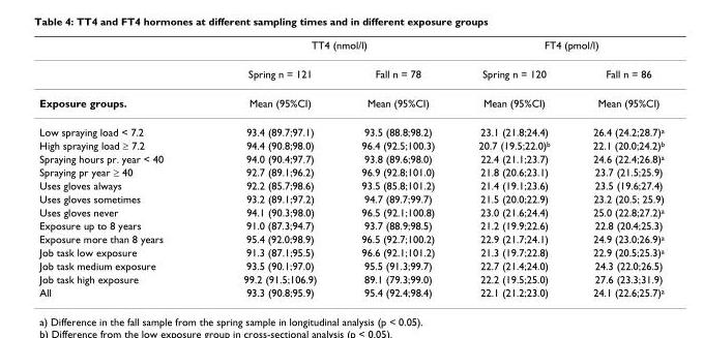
<table><thead><tr><td rowspan="2"></td><td colspan="2">TT4 (nmol/l)</td><td colspan="2">FT4 (pmol/l)</td></tr><tr><td>Spring n = 121</td><td>Fall n = 78</td><td>Spring n = 120</td><td>Fall n = 86</td></tr></thead><tbody><tr><td>Exposure groups.</td><td>Mean (95%CI)</td><td>Mean (95%CI)</td><td>Mean (95%CI)</td><td>Mean (95%CI)</td></tr><tr><td>Low spraying load &lt; 7.2</td><td>93.4 (89.7;97.1)</td><td>93.5 (88.8;98.2)</td><td>23.1 (21.8;24.4)</td><td>26.4 (24.2;28.7)<sup>a</sup></td></tr><tr><td>High spraying load ≥ 7.2</td><td>94.4 (90.8;98.0)</td><td>96.4 (92.5;100.3)</td><td>20.7 (19.5;22.0)<sup>b</sup></td><td>22.1 (20.0;24.2)<sup>b</sup></td></tr><tr><td>Spraying hours pr. year &lt; 40</td><td>94.0 (90.4;97.7)</td><td>93.8 (89.6;98.0)</td><td>22.4 (21.1;23.7)</td><td>24.6 (22.4;26.8)<sup>a</sup></td></tr><tr><td>Spraying pr year ≥ 40</td><td>92.7 (89.1;96.2)</td><td>96.9 (92.8;101.0)</td><td>21.8 (20.6;23.1)</td><td>23.7 (21.5;25.9)</td></tr><tr><td>Uses gloves always</td><td>92.2 (85.7;98.6)</td><td>93.5 (85.8;101.2)</td><td>21.4 (19.1;23.6)</td><td>23.5 (19.6;27.4)</td></tr><tr><td>Uses gloves sometimes</td><td>93.2 (89.1;97.2)</td><td>94.7 (89.7;99.7)</td><td>21.5 (20.0;22.9)</td><td>23.2 (20.5; 25.9)</td></tr><tr><td>Uses gloves never</td><td>94.1 (90.3;98.0)</td><td>96.5 (92.1;100.8)</td><td>23.0 (21.6;24.4)</td><td>25.0 (22.8;27.2)<sup>a</sup></td></tr><tr><td>Exposure up to 8 years</td><td>91.0 (87.3;94.7)</td><td>93.7 (88.9;98.5)</td><td>21.2 (19.9;22.6)</td><td>22.8 (20.4;25.3)</td></tr><tr><td>Exposure more than 8 years</td><td>95.4 (92.0;98.9)</td><td>96.5 (92.7;100.2)</td><td>22.9 (21.7;24.1)</td><td>24.9 (23.0;26.9)<sup>a</sup></td></tr><tr><td>Job task low exposure</td><td>91.3 (87.1;95.5)</td><td>96.6 (92.1;101.2)</td><td>21.3 (19.7;22.8)</td><td>22.9 (20.5;25.3)<sup>a</sup></td></tr><tr><td>Job task medium exposure</td><td>93.5 (90.1;97.0)</td><td>95.5 (91.3;99.7)</td><td>22.7 (21.4;24.0)</td><td>24.3 (22.0;26.5)</td></tr><tr><td>Job task high exposure</td><td>99.2 (91.5;106.9)</td><td>89.1 (79.3;99.0)</td><td>22.2 (19.5;25.0)</td><td>27.6 (23.3;31.9)</td></tr><tr><td>All</td><td>93.3 (90.8;95.9)</td><td>95.4 (92.4;98.4)</td><td>22.1 (21.2;23.0)</td><td>24.1 (22.6;25.7)<sup>a</sup></td></tr></tbody></table>